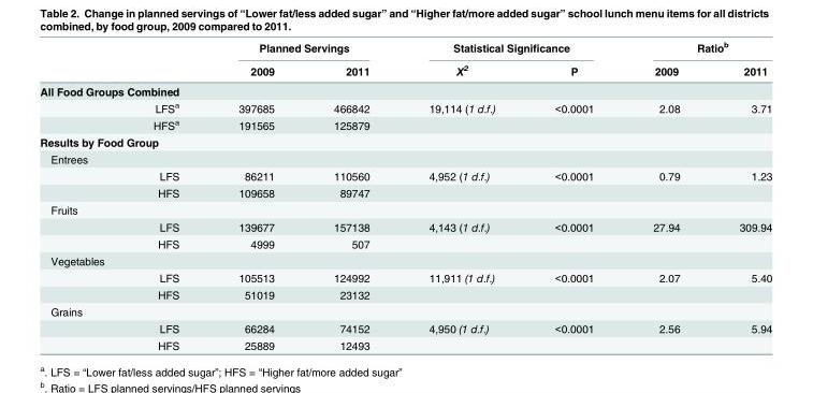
<table><thead><tr><td rowspan="2"></td><td colspan="2">Planned Servings</td><td colspan="2">Statistical Significance</td><td colspan="2">Ratio<sup>b</sup></td></tr><tr><td>2009</td><td>2011</td><td>X<sup>2</sup></td><td>P</td><td>2009</td><td>2011</td></tr></thead><tbody><tr><td colspan="7">All Food Groups Combined</td></tr><tr><td>LFS<sup>a</sup></td><td>397685</td><td>466842</td><td>19,114 (1 d.f.)</td><td>&lt;0.0001</td><td>2.08</td><td>3.71</td></tr><tr><td>HFS<sup>a</sup></td><td>191565</td><td>125879</td><td></td><td></td><td></td><td></td></tr><tr><td colspan="7">Results by Food Group</td></tr><tr><td colspan="7">Entrees</td></tr><tr><td>LFS</td><td>86211</td><td>110560</td><td>4,952 (1 d.f.)</td><td>&lt;0.0001</td><td>0.79</td><td>1.23</td></tr><tr><td>HFS</td><td>109658</td><td>89747</td><td></td><td></td><td></td><td></td></tr><tr><td colspan="7">Fruits</td></tr><tr><td>LFS</td><td>139677</td><td>157138</td><td>4,143 (1 d.f.)</td><td>&lt;0.0001</td><td>27.94</td><td>309.94</td></tr><tr><td>HFS</td><td>4999</td><td>507</td><td></td><td></td><td></td><td></td></tr><tr><td colspan="7">Vegetables</td></tr><tr><td>LFS</td><td>105513</td><td>124992</td><td>11,911 (1 d.f.)</td><td>&lt;0.0001</td><td>2.07</td><td>5.40</td></tr><tr><td>HFS</td><td>51019</td><td>23132</td><td></td><td></td><td></td><td></td></tr><tr><td colspan="7">Grains</td></tr><tr><td>LFS</td><td>66284</td><td>74152</td><td>4,950 (1 d.f.)</td><td>&lt;0.0001</td><td>2.56</td><td>5.94</td></tr><tr><td>HFS</td><td>25889</td><td>12493</td><td></td><td></td><td></td><td></td></tr></tbody></table>